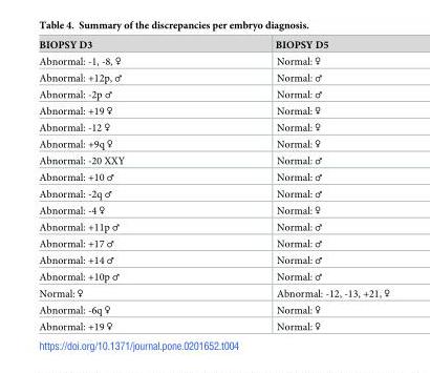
<table><thead><tr><td>BIOPSY D3</td><td>BIOPSY D5</td></tr></thead><tbody><tr><td>Abnormal: -1, -8, ♀</td><td>Normal: ♀</td></tr><tr><td>Abnormal: +12p, ♂</td><td>Normal: ♂</td></tr><tr><td>Abnormal: -2p ♂</td><td>Normal: ♂</td></tr><tr><td>Abnormal: +19 ♀</td><td>Normal: ♀</td></tr><tr><td>Abnormal: -12 ♀</td><td>Normal: ♀</td></tr><tr><td>Abnormal: +9q ♀</td><td>Normal: ♀</td></tr><tr><td>Abnormal: -20 XXY</td><td>Normal: ♂</td></tr><tr><td>Abnormal: +10 ♂</td><td>Normal: ♂</td></tr><tr><td>Abnormal: -2q ♂</td><td>Normal: ♂</td></tr><tr><td>Abnormal: -4 ♀</td><td>Normal: ♀</td></tr><tr><td>Abnormal: +11p ♂</td><td>Normal: ♂</td></tr><tr><td>Abnormal: +17 ♂</td><td>Normal: ♂</td></tr><tr><td>Abnormal: +14 ♂</td><td>Normal: ♂</td></tr><tr><td>Abnormal: +10p ♂</td><td>Normal: ♂</td></tr><tr><td>Normal: ♀</td><td>Abnormal: -12, -13, +21, ♀</td></tr><tr><td>Abnormal: -6q ♀</td><td>Normal: ♀</td></tr><tr><td>Abnormal: +19 ♀</td><td>Normal: ♀</td></tr></tbody></table>